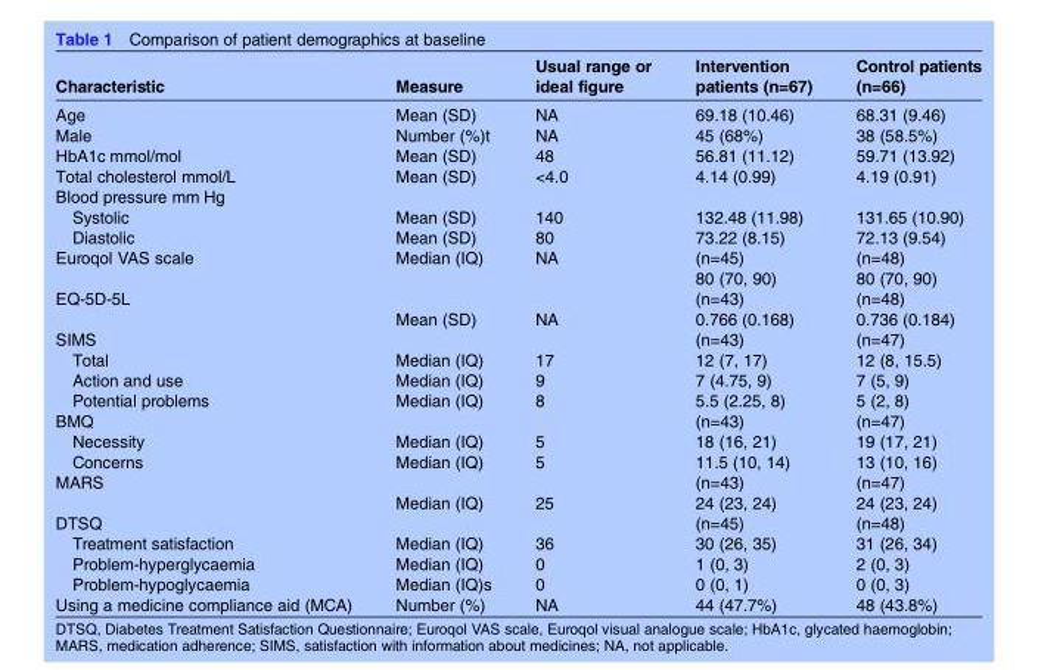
<table><thead><tr><td>Characteristic</td><td>Measure</td><td>Usual range or ideal figure</td><td>Intervention patients (n=67)</td><td>Control patients (n=66)</td></tr></thead><tbody><tr><td>Age</td><td>Mean (SD)</td><td>NA</td><td>69.18 (10.46)</td><td>68.31 (9.46)</td></tr><tr><td>Male</td><td>Number (%)t</td><td>NA</td><td>45 (68%)</td><td>38 (58.5%)</td></tr><tr><td>HbA1c mmol/mol</td><td>Mean (SD)</td><td>48</td><td>56.81 (11.12)</td><td>59.71 (13.92)</td></tr><tr><td>Total cholesterol mmol/L</td><td>Mean (SD)</td><td>&lt;4.0</td><td>4.14 (0.99)</td><td>4.19 (0.91)</td></tr><tr><td colspan="5">Blood pressure mm Hg</td></tr><tr><td>Systolic</td><td>Mean (SD)</td><td>140</td><td>132.48 (11.98)</td><td>131.65 (10.90)</td></tr><tr><td>Diastolic</td><td>Mean (SD)</td><td>80</td><td>73.22 (8.15)</td><td>72.13 (9.54)</td></tr><tr><td>Euroqol VAS scale</td><td>Median (IQ)</td><td>NA</td><td>(n=45) 80 (70, 90)</td><td>(n=48) 80 (70, 90)</td></tr><tr><td>EQ-5D-5L</td><td>Mean (SD)</td><td>NA</td><td>(n=43) 0.766 (0.168)</td><td>(n=48) 0.736 (0.184)</td></tr><tr><td>SIMS</td><td></td><td></td><td>(n=43)</td><td>(n=47)</td></tr><tr><td>Total</td><td>Median (IQ)</td><td>17</td><td>12 (7, 17)</td><td>12 (8, 15.5)</td></tr><tr><td>Action and use</td><td>Median (IQ)</td><td>9</td><td>7 (4.75, 9)</td><td>7 (5, 9)</td></tr><tr><td>Potential problems</td><td>Median (IQ)</td><td>8</td><td>5.5 (2.25, 8)</td><td>5 (2, 8)</td></tr><tr><td>BMQ</td><td></td><td></td><td>(n=43)</td><td>(n=47)</td></tr><tr><td>Necessity</td><td>Median (IQ)</td><td>5</td><td>18 (16, 21)</td><td>19 (17, 21)</td></tr><tr><td>Concerns</td><td>Median (IQ)</td><td>5</td><td>11.5 (10, 14)</td><td>13 (10, 16)</td></tr><tr><td rowspan="2">MARS</td><td></td><td></td><td>(n=43)</td><td>(n=47)</td></tr><tr><td>Median (IQ)</td><td>25</td><td>24 (23, 24)</td><td>24 (23, 24)</td></tr><tr><td>DTSQ</td><td></td><td></td><td>(n=45)</td><td>(n=48)</td></tr><tr><td>Treatment satisfaction</td><td>Median (IQ)</td><td>36</td><td>30 (26, 35)</td><td>31 (26, 34)</td></tr><tr><td>Problem-hyperglycaemia</td><td>Median (IQ)</td><td>0</td><td>1 (0, 3)</td><td>2 (0, 3)</td></tr><tr><td>Problem-hypoglycaemia</td><td>Median (IQ)s</td><td>0</td><td>0 (0, 1)</td><td>0 (0, 3)</td></tr><tr><td>Using a medicine compliance aid (MCA)</td><td>Number (%)</td><td>NA</td><td>44 (47.7%)</td><td>48 (43.8%)</td></tr></tbody></table>